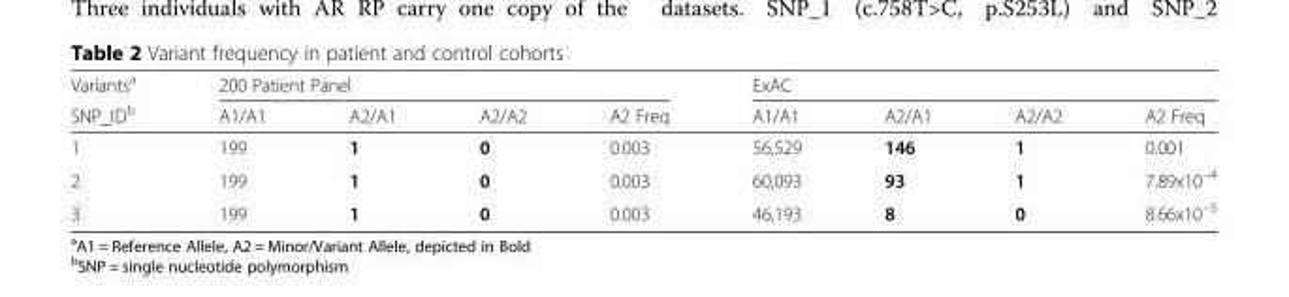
<table><thead><tr><td rowspan="2">Variants<sup>a</sup> SNP_ID<sup>b</sup></td><td colspan="4">200 Patient Panel</td><td colspan="4">ExAC</td></tr><tr><td>A1/A1</td><td>A2/A1</td><td>A2/A2</td><td>A2 Freq</td><td>A1/A1</td><td>A2/A1</td><td>A2/A2</td><td>A2 Freq</td></tr></thead><tbody><tr><td>1</td><td>199</td><td>1</td><td>0</td><td>0.003</td><td>56,529</td><td>146</td><td>1</td><td>0.001</td></tr><tr><td>2</td><td>199</td><td>1</td><td>0</td><td>0.003</td><td>60,093</td><td>93</td><td>1</td><td>7.89x10<sup>−4</sup></td></tr><tr><td>3</td><td>199</td><td>1</td><td>0</td><td>0.003</td><td>46,193</td><td>8</td><td>0</td><td>8.66x10<sup>−5</sup></td></tr></tbody></table>